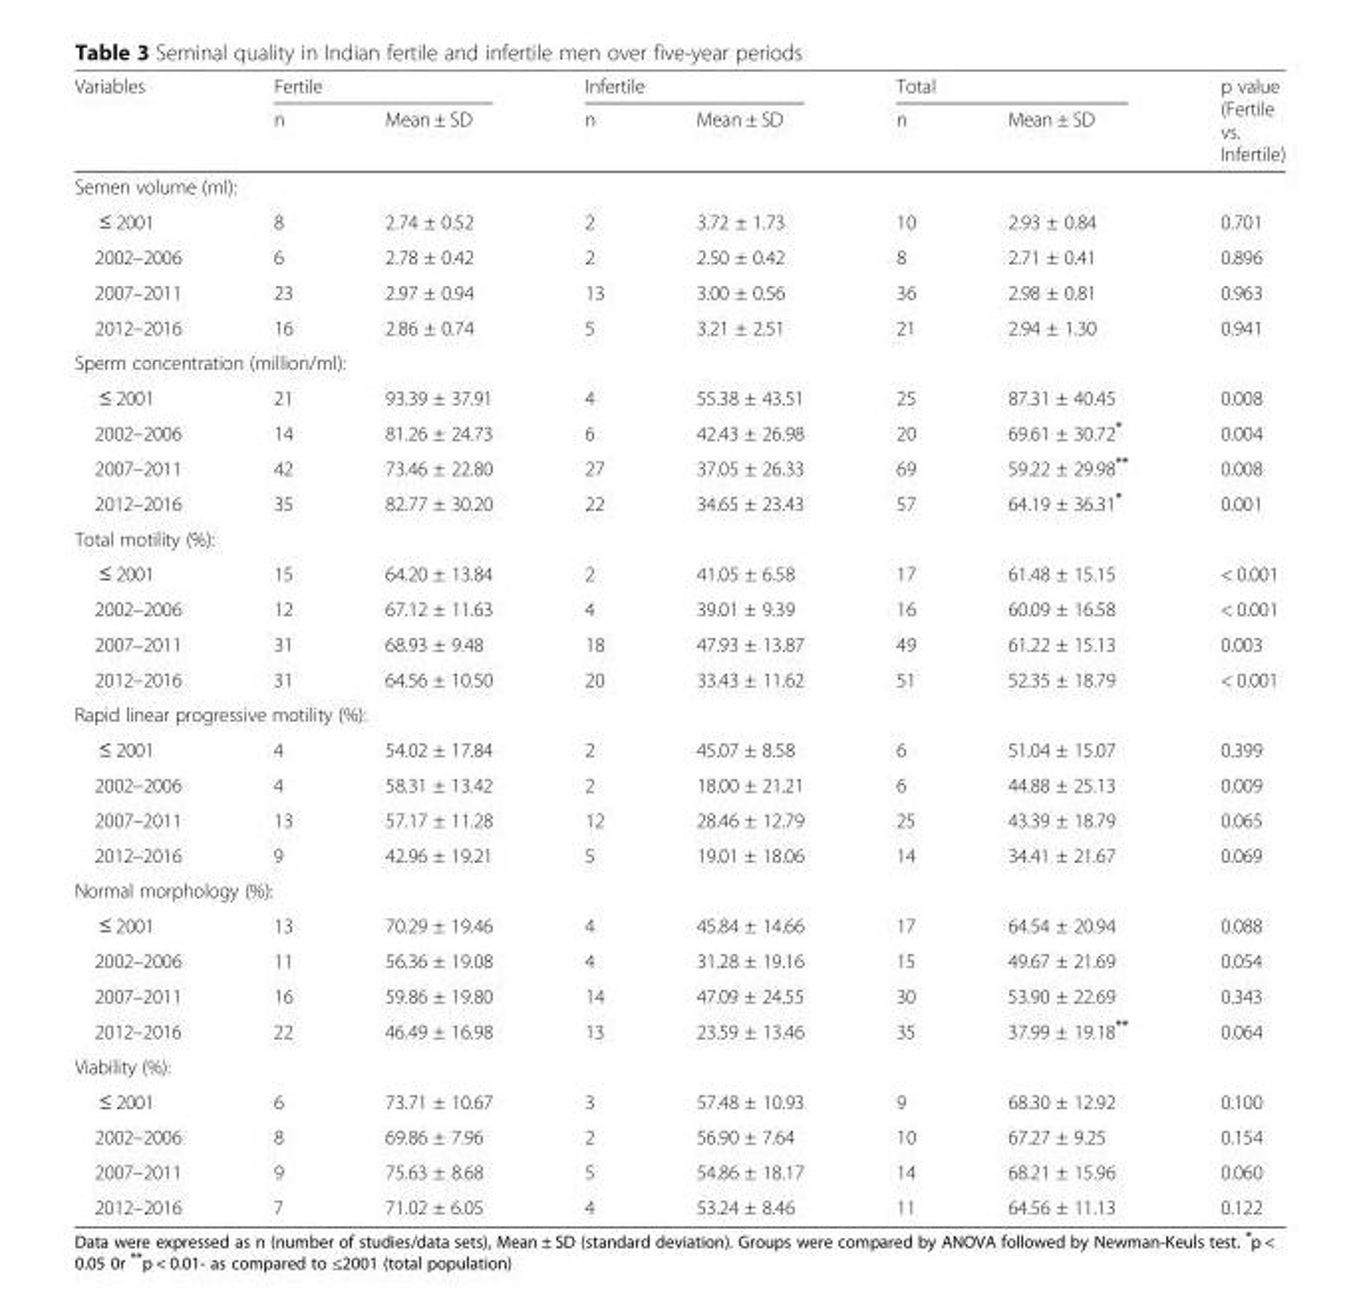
<table><thead><tr><td rowspan="2">Variables</td><td colspan="2">Fertile</td><td colspan="2">Infertile</td><td colspan="2">Total</td><td rowspan="2">p value (Fertile vs. Infertile)</td></tr><tr><td>n</td><td>Mean ± SD</td><td>n</td><td>Mean ± SD</td><td>n</td><td>Mean ± SD</td></tr></thead><tbody><tr><td colspan="8">Semen volume (ml):</td></tr><tr><td>≤ 2001</td><td>8</td><td>2.74 ± 0.52</td><td>2</td><td>3.72 ± 1.73</td><td>10</td><td>2.93 ± 0.84</td><td>0.701</td></tr><tr><td>2002–2006</td><td>6</td><td>2.78 ± 0.42</td><td>2</td><td>2.50 ± 0.42</td><td>8</td><td>2.71 ± 0.41</td><td>0.896</td></tr><tr><td>2007–2011</td><td>23</td><td>2.97 ± 0.94</td><td>13</td><td>3.00 ± 0.56</td><td>36</td><td>2.98 ± 0.81</td><td>0.963</td></tr><tr><td>2012–2016</td><td>16</td><td>2.86 ± 0.74</td><td>5</td><td>3.21 ± 2.51</td><td>21</td><td>2.94 ± 1.30</td><td>0.941</td></tr><tr><td colspan="8">Sperm concentration (million/ml):</td></tr><tr><td>≤ 2001</td><td>21</td><td>93.39 ± 37.91</td><td>4</td><td>55.38 ± 43.51</td><td>25</td><td>87.31 ± 40.45</td><td>0.008</td></tr><tr><td>2002–2006</td><td>14</td><td>81.26 ± 24.73</td><td>6</td><td>42.43 ± 26.98</td><td>20</td><td>69.61 ± 30.72*</td><td>0.004</td></tr><tr><td>2007–2011</td><td>42</td><td>73.46 ± 22.80</td><td>27</td><td>37.05 ± 26.33</td><td>69</td><td>59.22 ± 29.98**</td><td>0.008</td></tr><tr><td>2012–2016</td><td>35</td><td>82.77 ± 30.20</td><td>22</td><td>34.65 ± 23.43</td><td>57</td><td>64.19 ± 36.31*</td><td>0.001</td></tr><tr><td colspan="8">Total motility (%):</td></tr><tr><td>≤ 2001</td><td>15</td><td>64.20 ± 13.84</td><td>2</td><td>41.05 ± 6.58</td><td>17</td><td>61.48 ± 15.15</td><td>&lt; 0.001</td></tr><tr><td>2002–2006</td><td>12</td><td>67.12 ± 11.63</td><td>4</td><td>39.01 ± 9.39</td><td>16</td><td>60.09 ± 16.58</td><td>&lt; 0.001</td></tr><tr><td>2007–2011</td><td>31</td><td>68.93 ± 9.48</td><td>18</td><td>47.93 ± 13.87</td><td>49</td><td>61.22 ± 15.13</td><td>0.003</td></tr><tr><td>2012–2016</td><td>31</td><td>64.56 ± 10.50</td><td>20</td><td>33.43 ± 11.62</td><td>51</td><td>52.35 ± 18.79</td><td>&lt; 0.001</td></tr><tr><td colspan="8">Rapid linear progressive motility (%):</td></tr><tr><td>≤ 2001</td><td>4</td><td>54.02 ± 17.84</td><td>2</td><td>45.07 ± 8.58</td><td>6</td><td>51.04 ± 15.07</td><td>0.399</td></tr><tr><td>2002–2006</td><td>4</td><td>58.31 ± 13.42</td><td>2</td><td>18.00 ± 21.21</td><td>6</td><td>44.88 ± 25.13</td><td>0.009</td></tr><tr><td>2007–2011</td><td>13</td><td>57.17 ± 11.28</td><td>12</td><td>28.46 ± 12.79</td><td>25</td><td>43.39 ± 18.79</td><td>0.065</td></tr><tr><td>2012–2016</td><td>9</td><td>42.96 ± 19.21</td><td>5</td><td>19.01 ± 18.06</td><td>14</td><td>34.41 ± 21.67</td><td>0.069</td></tr><tr><td colspan="8">Normal morphology (%):</td></tr><tr><td>≤ 2001</td><td>13</td><td>70.29 ± 19.46</td><td>4</td><td>45.84 ± 14.66</td><td>17</td><td>64.54 ± 20.94</td><td>0.088</td></tr><tr><td>2002–2006</td><td>11</td><td>56.36 ± 19.08</td><td>4</td><td>31.28 ± 19.16</td><td>15</td><td>49.67 ± 21.69</td><td>0.054</td></tr><tr><td>2007–2011</td><td>16</td><td>59.86 ± 19.80</td><td>14</td><td>47.09 ± 24.55</td><td>30</td><td>53.90 ± 22.69</td><td>0.343</td></tr><tr><td>2012–2016</td><td>22</td><td>46.49 ± 16.98</td><td>13</td><td>23.59 ± 13.46</td><td>35</td><td>37.99 ± 19.18**</td><td>0.064</td></tr><tr><td colspan="8">Viability (%):</td></tr><tr><td>≤ 2001</td><td>6</td><td>73.71 ± 10.67</td><td>3</td><td>57.48 ± 10.93</td><td>9</td><td>68.30 ± 12.92</td><td>0.100</td></tr><tr><td>2002–2006</td><td>8</td><td>69.86 ± 7.96</td><td>2</td><td>56.90 ± 7.64</td><td>10</td><td>67.27 ± 9.25</td><td>0.154</td></tr><tr><td>2007–2011</td><td>9</td><td>75.63 ± 8.68</td><td>5</td><td>54.86 ± 18.17</td><td>14</td><td>68.21 ± 15.96</td><td>0.060</td></tr><tr><td>2012–2016</td><td>7</td><td>71.02 ± 6.05</td><td>4</td><td>53.24 ± 8.46</td><td>11</td><td>64.56 ± 11.13</td><td>0.122</td></tr></tbody></table>